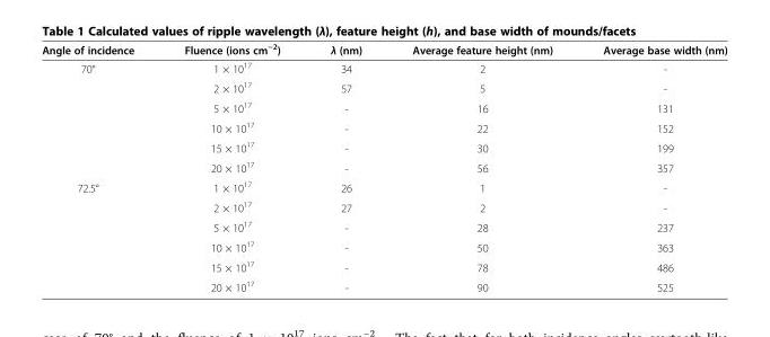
<table><thead><tr><td>Angle of incidence</td><td>Fluence (ions cm<sup>−2</sup>)</td><td>λ (nm)</td><td>Average feature height (nm)</td><td>Average base width (nm)</td></tr></thead><tbody><tr><td rowspan="6">70°</td><td>1 × 10<sup>17</sup></td><td>34</td><td>2</td><td>-</td></tr><tr><td>2 × 10<sup>17</sup></td><td>57</td><td>5</td><td>-</td></tr><tr><td>5 × 10<sup>17</sup></td><td>-</td><td>16</td><td>131</td></tr><tr><td>10 × 10<sup>17</sup></td><td>-</td><td>22</td><td>152</td></tr><tr><td>15 × 10<sup>17</sup></td><td>-</td><td>30</td><td>199</td></tr><tr><td>20 × 10<sup>17</sup></td><td>-</td><td>56</td><td>357</td></tr><tr><td rowspan="6">72.5°</td><td>1 × 10<sup>17</sup></td><td>26</td><td>1</td><td>-</td></tr><tr><td>2 × 10<sup>17</sup></td><td>27</td><td>2</td><td>-</td></tr><tr><td>5 × 10<sup>17</sup></td><td>-</td><td>28</td><td>237</td></tr><tr><td>10 × 10<sup>17</sup></td><td>-</td><td>50</td><td>363</td></tr><tr><td>15 × 10<sup>17</sup></td><td>-</td><td>78</td><td>486</td></tr><tr><td>20 × 10<sup>17</sup></td><td>-</td><td>90</td><td>525</td></tr></tbody></table>